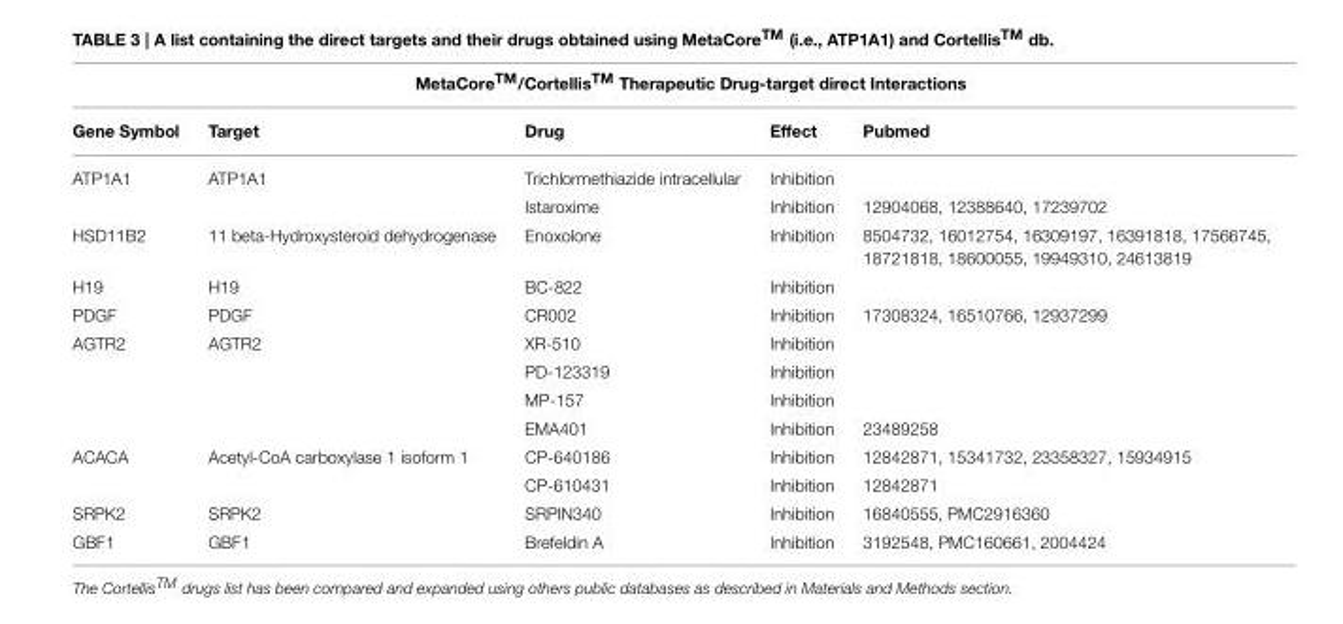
<table><thead><tr><td colspan="5">MetaCoreTM/CortellisTM Therapeutic Drug-target direct Interactions</td></tr><tr><td>Gene Symbol</td><td>Target</td><td>Drug</td><td>Effect</td><td>Pubmed</td></tr></thead><tbody><tr><td rowspan="2">ATP1A1</td><td>ATP1A1</td><td>Trichlormethiazide intracellular</td><td>Inhibition</td><td></td></tr><tr><td></td><td>Istaroxime</td><td>Inhibition</td><td>12904068, 12388640, 17239702</td></tr><tr><td>HSD11B2</td><td>11 beta-Hydroxysteroid dehydrogenase</td><td>Enoxolone</td><td>Inhibition</td><td>8504732, 16012754, 16309197, 16391818, 17566745, 18721818, 18600055, 19949310, 24613819</td></tr><tr><td>H19</td><td>H19</td><td>BC-822</td><td>Inhibition</td><td></td></tr><tr><td>PDGF</td><td>PDGF</td><td>CR002</td><td>Inhibition</td><td>17308324, 16510766, 12937299</td></tr><tr><td rowspan="4">AGTR2</td><td>AGTR2</td><td>XR-510</td><td>Inhibition</td><td></td></tr><tr><td></td><td>PD-123319</td><td>Inhibition</td><td></td></tr><tr><td></td><td>MP-157</td><td>Inhibition</td><td></td></tr><tr><td></td><td>EMA401</td><td>Inhibition</td><td>23489258</td></tr><tr><td rowspan="2">ACACA</td><td>Acetyl-CoA carboxylase 1 isoform 1</td><td>CP-640186</td><td>Inhibition</td><td>12842871, 15341732, 23358327, 15934915</td></tr><tr><td></td><td>CP-610431</td><td>Inhibition</td><td>12842871</td></tr><tr><td>SRPK2</td><td>SRPK2</td><td>SRPIN340</td><td>Inhibition</td><td>16840555, PMC2916360</td></tr><tr><td>GBF1</td><td>GBF1</td><td>Brefeldin A</td><td>Inhibition</td><td>3192548, PMC160661, 2004424</td></tr></tbody></table>